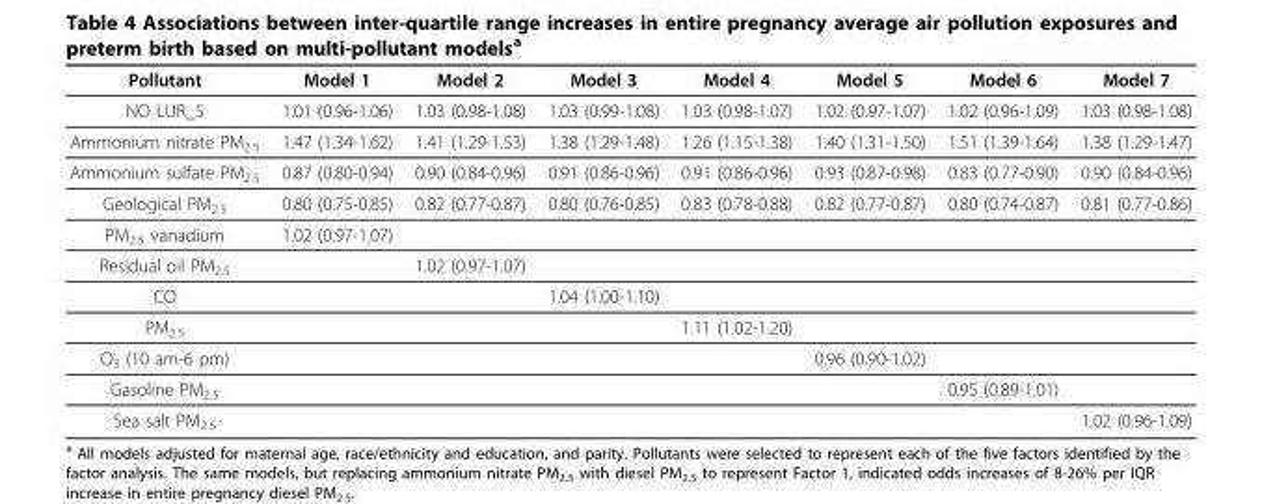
<table><thead><tr><td>Pollutant</td><td>Model 1</td><td>Model 2</td><td>Model 3</td><td>Model 4</td><td>Model 5</td><td>Model 6</td><td>Model 7</td></tr></thead><tbody><tr><td>NO LUR_S</td><td>1.01 (0.96-1.06)</td><td>1.03 (0.98-1.08)</td><td>1.03 (0.99-1.08)</td><td>1.03 (0.98-1.07)</td><td>1.02 (0.97-1.07)</td><td>1.02 (0.96-1.09)</td><td>1.03 (0.98-1.08)</td></tr><tr><td>Ammonium nitrate PM<sub>2.5</sub></td><td>1.47 (1.34-1.62)</td><td>1.41 (1.29-1.53)</td><td>1.38 (1.29-1.48)</td><td>1.26 (1.15-1.38)</td><td>1.40 (1.31-1.50)</td><td>1.51 (1.39-1.64)</td><td>1.38 (1.29-1.47)</td></tr><tr><td>Ammonium sulfate PM<sub>2.5</sub></td><td>0.87 (0.80-0.94)</td><td>0.90 (0.84-0.96)</td><td>0.91 (0.86-0.96)</td><td>0.91 (0.86-0.96)</td><td>0.93 (0.87-0.98)</td><td>0.83 (0.77-0.90)</td><td>0.90 (0.84-0.96)</td></tr><tr><td>Geological PM<sub>2.5</sub></td><td>0.80 (0.75-0.85)</td><td>0.82 (0.77-0.87)</td><td>0.80 (0.76-0.85)</td><td>0.83 (0.78-0.88)</td><td>0.82 (0.77-0.87)</td><td>0.80 (0.74-0.87)</td><td>0.81 (0.77-0.86)</td></tr><tr><td>PM<sub>2.5</sub> vanadium</td><td>1.02 (0.97-1.07)</td><td></td><td></td><td></td><td></td><td></td><td></td></tr><tr><td>Residual oil PM<sub>2.5</sub></td><td></td><td>1.02 (0.97-1.07)</td><td></td><td></td><td></td><td></td><td></td></tr><tr><td>CO</td><td></td><td></td><td>1.04 (1.00-1.10)</td><td></td><td></td><td></td><td></td></tr><tr><td>PM<sub>2.5</sub></td><td></td><td></td><td></td><td>1.11 (1.02-1.20)</td><td></td><td></td><td></td></tr><tr><td>O<sub>3</sub> (10 am-6 pm)</td><td></td><td></td><td></td><td></td><td>0.96 (0.90-1.02)</td><td></td><td></td></tr><tr><td>Gasoline PM<sub>2.5</sub></td><td></td><td></td><td></td><td></td><td></td><td>0.95 (0.89-1.01)</td><td></td></tr><tr><td>Sea salt PM<sub>2.5</sub></td><td></td><td></td><td></td><td></td><td></td><td></td><td>1.02 (0.96-1.09)</td></tr></tbody></table>